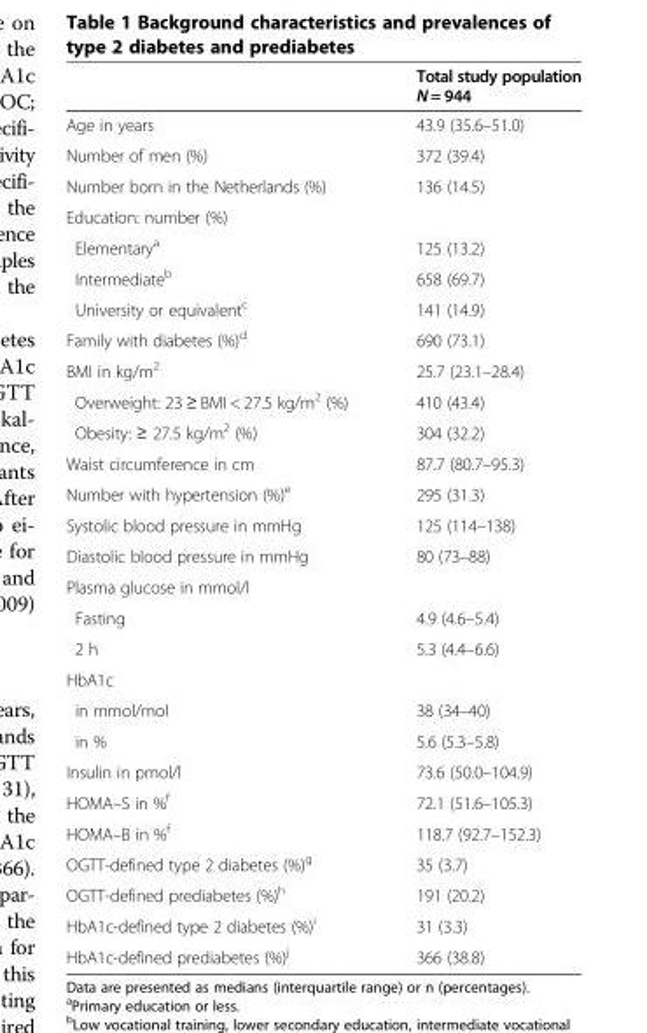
<table><thead><tr><td></td><td>Total study population N = 944</td></tr></thead><tbody><tr><td>Age in years</td><td>43.9 (35.6–51.0)</td></tr><tr><td>Number of men (%)</td><td>372 (39.4)</td></tr><tr><td>Number born in the Netherlands (%)</td><td>136 (14.5)</td></tr><tr><td colspan="2">Education: number (%)</td></tr><tr><td>Elementary<sup>a</sup></td><td>125 (13.2)</td></tr><tr><td>Intermediate<sup>b</sup></td><td>658 (69.7)</td></tr><tr><td>University or equivalent<sup>c</sup></td><td>141 (14.9)</td></tr><tr><td>Family with diabetes (%)<sup>d</sup></td><td>690 (73.1)</td></tr><tr><td>BMI in kg/m<sup>2</sup></td><td>25.7 (23.1–28.4)</td></tr><tr><td>Overweight: 23 ≥ BMI &lt; 27.5 kg/m<sup>2</sup> (%)</td><td>410 (43.4)</td></tr><tr><td>Obesity: ≥ 27.5 kg/m<sup>2</sup> (%)</td><td>304 (32.2)</td></tr><tr><td>Waist circumference in cm</td><td>87.7 (80.7–95.3)</td></tr><tr><td>Number with hypertension (%)<sup>e</sup></td><td>295 (31.3)</td></tr><tr><td>Systolic blood pressure in mmHg</td><td>125 (114–138)</td></tr><tr><td>Diastolic blood pressure in mmHg</td><td>80 (73–88)</td></tr><tr><td colspan="2">Plasma glucose in mmol/l</td></tr><tr><td>Fasting</td><td>4.9 (4.6–5.4)</td></tr><tr><td>2 h</td><td>5.3 (4.4–6.6)</td></tr><tr><td colspan="2">HbA1c</td></tr><tr><td>in mmol/mol</td><td>38 (34–40)</td></tr><tr><td>in %</td><td>5.6 (5.3–5.8)</td></tr><tr><td>Insulin in pmol/l</td><td>73.6 (50.0–104.9)</td></tr><tr><td>HOMA–S in %<sup>f</sup></td><td>72.1 (51.6–105.3)</td></tr><tr><td>HOMA–B in %<sup>f</sup></td><td>118.7 (92.7–152.3)</td></tr><tr><td>OGTT-defined type 2 diabetes (%)<sup>g</sup></td><td>35 (3.7)</td></tr><tr><td>OGTT-defined prediabetes (%)<sup>h</sup></td><td>191 (20.2)</td></tr><tr><td>HbA1c-defined type 2 diabetes (%)<sup>i</sup></td><td>31 (3.3)</td></tr><tr><td>HbA1c-defined prediabetes (%)<sup>j</sup></td><td>366 (38.8)</td></tr></tbody></table>